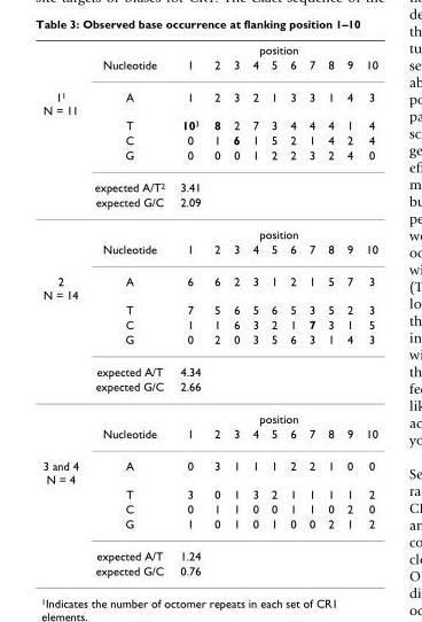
<table><thead><tr><td rowspan="8">1<sup>1</sup> N = 11</td><td rowspan="8">Nucleotide A T C G expected A/T2 expected G/C</td><td colspan="10">position</td></tr><tr><td rowspan="7">1 1 103 0 0 3.41 2.09</td><td rowspan="7">2 2 8 1 0</td><td rowspan="7">3 3 2 6 0</td><td rowspan="7">4 2 7 1 1</td><td rowspan="7">5 1 3 5 2</td><td rowspan="7">6 3 4 2 2</td><td rowspan="7">7 3 4 1 3</td><td rowspan="7">8 1 4 4 2</td><td rowspan="7">9 4 1 2 4</td><td rowspan="7">10 3 4 4 0</td></tr><tr></tr><tr></tr><tr></tr><tr></tr><tr></tr><tr></tr></thead><tbody><tr><td></td><td></td><td colspan="10">position</td></tr><tr><td></td><td>Nucleotide</td><td>1</td><td>2</td><td>3</td><td>4</td><td>5</td><td>6</td><td>7</td><td>8</td><td>9</td><td>10</td></tr><tr><td rowspan="8">2 N = 14</td><td>A</td><td>6</td><td>6</td><td>2</td><td>3</td><td>1</td><td>2</td><td>1</td><td>5</td><td>7</td><td>3</td></tr><tr><td>T</td><td>7</td><td>5</td><td>6</td><td>5</td><td>6</td><td>5</td><td>3</td><td>5</td><td>2</td><td>3</td></tr><tr><td>C</td><td>1</td><td>1</td><td>6</td><td>3</td><td>2</td><td>1</td><td>7</td><td>3</td><td>1</td><td>5</td></tr><tr><td>G</td><td>0</td><td>2</td><td>0</td><td>3</td><td>5</td><td>6</td><td>3</td><td>1</td><td>4</td><td>3</td></tr><tr><td>expected A/T</td><td>4.34</td><td></td><td></td><td></td><td></td><td></td><td></td><td></td><td></td><td></td></tr><tr><td>expected G/C</td><td>2.66</td><td></td><td></td><td></td><td></td><td></td><td></td><td></td><td></td><td></td></tr><tr><td></td><td colspan="10">position</td></tr><tr><td>Nucleotide</td><td>1</td><td>2</td><td>3</td><td>4</td><td>5</td><td>6</td><td>7</td><td>8</td><td>9</td><td>10</td></tr><tr><td rowspan="6">3 and 4 N = 4</td><td>A</td><td>0</td><td>3</td><td>1</td><td>1</td><td>1</td><td>2</td><td>2</td><td>1</td><td>0</td><td>0</td></tr><tr><td>T</td><td>3</td><td>0</td><td>1</td><td>3</td><td>2</td><td>1</td><td>1</td><td>1</td><td>1</td><td>2</td></tr><tr><td>C</td><td>0</td><td>1</td><td>1</td><td>0</td><td>0</td><td>1</td><td>1</td><td>0</td><td>2</td><td>0</td></tr><tr><td>G</td><td>1</td><td>0</td><td>1</td><td>0</td><td>1</td><td>0</td><td>0</td><td>2</td><td>1</td><td>2</td></tr><tr><td>expected A/T</td><td>1.24</td><td></td><td></td><td></td><td></td><td></td><td></td><td></td><td></td><td></td></tr><tr><td>expected G/C</td><td>0.76</td><td></td><td></td><td></td><td></td><td></td><td></td><td></td><td></td><td></td></tr></tbody></table>